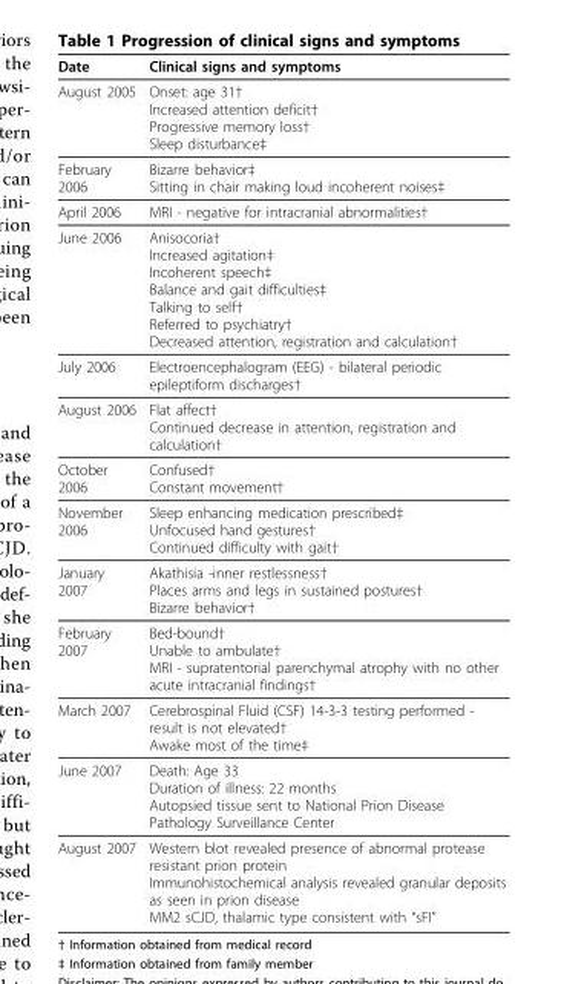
<table><thead><tr><td>Date</td><td>Clinical signs and symptoms</td></tr></thead><tbody><tr><td>August 2005</td><td>Onset: age 31† Increased attention deficit† Progressive memory loss† Sleep disturbance‡</td></tr><tr><td>February 2006</td><td>Bizarre behavior‡ Sitting in chair making loud incoherent noises‡</td></tr><tr><td>April 2006</td><td>MRI - negative for intracranial abnormalities†</td></tr><tr><td>June 2006</td><td>Anisocoria† Increased agitation‡ Incoherent speech‡ Balance and gait difficulties‡ Talking to self† Referred to psychiatry† Decreased attention, registration and calculation†</td></tr><tr><td>July 2006</td><td>Electroencephalogram (EEG) - bilateral periodic epileptiform discharges†</td></tr><tr><td>August 2006</td><td>Flat affect† Continued decrease in attention, registration and calculation†</td></tr><tr><td>October 2006</td><td>Confused† Constant movement†</td></tr><tr><td>November 2006</td><td>Sleep enhancing medication prescribed‡ Unfocused hand gestures† Continued difficulty with gait†</td></tr><tr><td>January 2007</td><td>Akathisia -inner restlessness† Places arms and legs in sustained postures† Bizarre behavior†</td></tr><tr><td>February 2007</td><td>Bed-bound† Unable to ambulate† MRI - supratentorial parenchymal atrophy with no other acute intracranial findings†</td></tr><tr><td>March 2007</td><td>Cerebrospinal Fluid (CSF) 14-3-3 testing performed - result is not elevated† Awake most of the time‡</td></tr><tr><td>June 2007</td><td>Death: Age 33 Duration of illness: 22 months Autopsied tissue sent to National Prion Disease Pathology Surveillance Center</td></tr><tr><td>August 2007</td><td>Western blot revealed presence of abnormal protease resistant prion protein Immunohistochemical analysis revealed granular deposits as seen in prion disease MM2 sCJD, thalamic type consistent with “sFI”</td></tr></tbody></table>